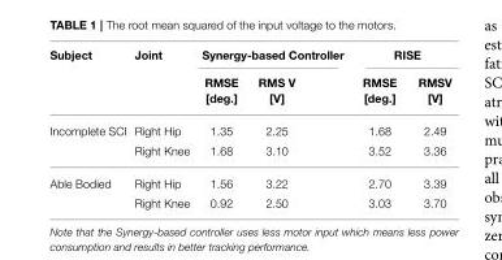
<table><thead><tr><td rowspan="2">Subject</td><td rowspan="2">Joint</td><td colspan="2">Synergy-based Controller</td><td colspan="2">RISE</td></tr><tr><td>RMSE [deg.]</td><td>RMS V [V]</td><td>RMSE [deg.]</td><td>RMSV [V]</td></tr></thead><tbody><tr><td rowspan="2">Incomplete SCI</td><td>Right Hip</td><td>1.35</td><td>2.25</td><td>1.68</td><td>2.49</td></tr><tr><td>Right Knee</td><td>1.68</td><td>3.10</td><td>3.52</td><td>3.36</td></tr><tr><td rowspan="2">Able Bodied</td><td>Right Hip</td><td>1.56</td><td>3.22</td><td>2.70</td><td>3.39</td></tr><tr><td>Right Knee</td><td>0.92</td><td>2.50</td><td>3.03</td><td>3.70</td></tr></tbody></table>